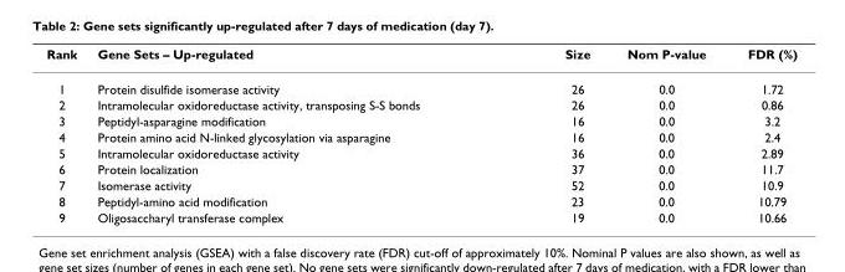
<table><thead><tr><td>Rank</td><td>Gene Sets – Up-regulated</td><td>Size</td><td>Nom P-value</td><td>FDR (%)</td></tr></thead><tbody><tr><td>1</td><td>Protein disulfide isomerase activity</td><td>26</td><td>0.0</td><td>1.72</td></tr><tr><td>2</td><td>Intramolecular oxidoreductase activity, transposing S-S bonds</td><td>26</td><td>0.0</td><td>0.86</td></tr><tr><td>3</td><td>Peptidyl-asparagine modification</td><td>16</td><td>0.0</td><td>3.2</td></tr><tr><td>4</td><td>Protein amino acid N-linked glycosylation via asparagine</td><td>16</td><td>0.0</td><td>2.4</td></tr><tr><td>5</td><td>Intramolecular oxidoreductase activity</td><td>36</td><td>0.0</td><td>2.89</td></tr><tr><td>6</td><td>Protein localization</td><td>37</td><td>0.0</td><td>11.7</td></tr><tr><td>7</td><td>Isomerase activity</td><td>52</td><td>0.0</td><td>10.9</td></tr><tr><td>8</td><td>Peptidyl-amino acid modification</td><td>23</td><td>0.0</td><td>10.79</td></tr><tr><td>9</td><td>Oligosaccharyl transferase complex</td><td>19</td><td>0.0</td><td>10.66</td></tr></tbody></table>